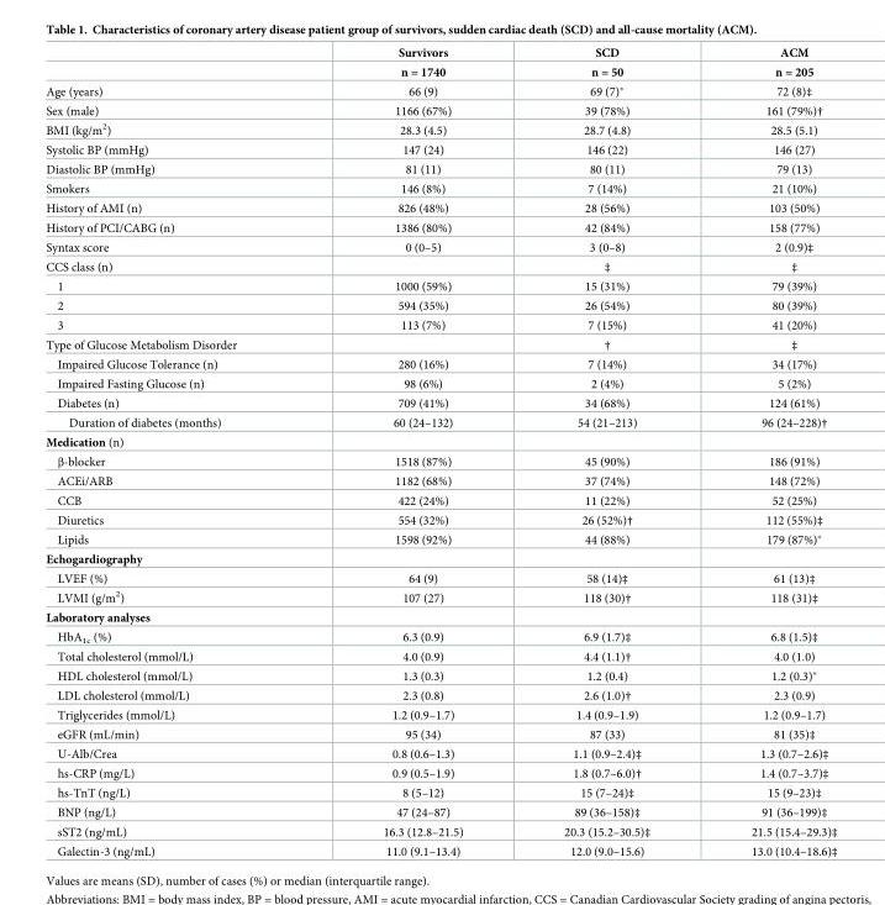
<table><thead><tr><td rowspan="2"></td><td rowspan="2">Survivors n = 1740</td><td rowspan="2">SCD n = 50</td><td rowspan="2">ACM n = 205</td></tr><tr></tr></thead><tbody><tr><td>Age (years)</td><td>66 (9)</td><td>69 (7)*</td><td>72 (8)‡</td></tr><tr><td>Sex (male)</td><td>1166 (67%)</td><td>39 (78%)</td><td>161 (79%)†</td></tr><tr><td>BMI (kg/m<sup>2</sup>)</td><td>28.3 (4.5)</td><td>28.7 (4.8)</td><td>28.5 (5.1)</td></tr><tr><td>Systolic BP (mmHg)</td><td>147 (24)</td><td>146 (22)</td><td>146 (27)</td></tr><tr><td>Diastolic BP (mmHg)</td><td>81 (11)</td><td>80 (11)</td><td>79 (13)</td></tr><tr><td>Smokers</td><td>146 (8%)</td><td>7 (14%)</td><td>21 (10%)</td></tr><tr><td>History of AMI (n)</td><td>826 (48%)</td><td>28 (56%)</td><td>103 (50%)</td></tr><tr><td>History of PCI/CABG (n)</td><td>1386 (80%)</td><td>42 (84%)</td><td>158 (77%)</td></tr><tr><td>Syntax score</td><td>0 (0–5)</td><td>3 (0–8)</td><td>2 (0.9)‡</td></tr><tr><td>CCS class (n)</td><td></td><td>‡</td><td>‡</td></tr><tr><td>1</td><td>1000 (59%)</td><td>15 (31%)</td><td>79 (39%)</td></tr><tr><td>2</td><td>594 (35%)</td><td>26 (54%)</td><td>80 (39%)</td></tr><tr><td>3</td><td>113 (7%)</td><td>7 (15%)</td><td>41 (20%)</td></tr><tr><td>Type of Glucose Metabolism Disorder</td><td></td><td>†</td><td>‡</td></tr><tr><td>Impaired Glucose Tolerance (n)</td><td>280 (16%)</td><td>7 (14%)</td><td>34 (17%)</td></tr><tr><td>Impaired Fasting Glucose (n)</td><td>98 (6%)</td><td>2 (4%)</td><td>5 (2%)</td></tr><tr><td>Diabetes (n)</td><td>709 (41%)</td><td>34 (68%)</td><td>124 (61%)</td></tr><tr><td>Duration of diabetes (months)</td><td>60 (24–132)</td><td>54 (21–213)</td><td>96 (24–228)†</td></tr><tr><td colspan="4">Medication (n)</td></tr><tr><td>β-blocker</td><td>1518 (87%)</td><td>45 (90%)</td><td>186 (91%)</td></tr><tr><td>ACEi/ARB</td><td>1182 (68%)</td><td>37 (74%)</td><td>148 (72%)</td></tr><tr><td>CCB</td><td>422 (24%)</td><td>11 (22%)</td><td>52 (25%)</td></tr><tr><td>Diuretics</td><td>554 (32%)</td><td>26 (52%)†</td><td>112 (55%)‡</td></tr><tr><td>Lipids</td><td>1598 (92%)</td><td>44 (88%)</td><td>179 (87%)*</td></tr><tr><td colspan="4">Echogardiography</td></tr><tr><td>LVEF (%)</td><td>64 (9)</td><td>58 (14)‡</td><td>61 (13)‡</td></tr><tr><td>LVMI (g/m<sup>2</sup>)</td><td>107 (27)</td><td>118 (30)†</td><td>118 (31)‡</td></tr><tr><td colspan="4">Laboratory analyses</td></tr><tr><td>HbA<sub>1c</sub> (%)</td><td>6.3 (0.9)</td><td>6.9 (1.7)‡</td><td>6.8 (1.5)‡</td></tr><tr><td>Total cholesterol (mmol/L)</td><td>4.0 (0.9)</td><td>4.4 (1.1)†</td><td>4.0 (1.0)</td></tr><tr><td>HDL cholesterol (mmol/L)</td><td>1.3 (0.3)</td><td>1.2 (0.4)</td><td>1.2 (0.3)*</td></tr><tr><td>LDL cholesterol (mmol/L)</td><td>2.3 (0.8)</td><td>2.6 (1.0)†</td><td>2.3 (0.9)</td></tr><tr><td>Triglycerides (mmol/L)</td><td>1.2 (0.9–1.7)</td><td>1.4 (0.9–1.9)</td><td>1.2 (0.9–1.7)</td></tr><tr><td>eGFR (mL/min)</td><td>95 (34)</td><td>87 (33)</td><td>81 (35)‡</td></tr><tr><td>U-Alb/Crea</td><td>0.8 (0.6–1.3)</td><td>1.1 (0.9–2.4)‡</td><td>1.3 (0.7–2.6)‡</td></tr><tr><td>hs-CRP (mg/L)</td><td>0.9 (0.5–1.9)</td><td>1.8 (0.7–6.0)†</td><td>1.4 (0.7–3.7)‡</td></tr><tr><td>hs-TnT (ng/L)</td><td>8 (5–12)</td><td>15 (7–24)‡</td><td>15 (9–23)‡</td></tr><tr><td>BNP (ng/L)</td><td>47 (24–87)</td><td>89 (36–158)‡</td><td>91 (36–199)‡</td></tr><tr><td>sST2 (ng/mL)</td><td>16.3 (12.8–21.5)</td><td>20.3 (15.2–30.5)‡</td><td>21.5 (15.4–29.3)‡</td></tr><tr><td>Galectin-3 (ng/mL)</td><td>11.0 (9.1–13.4)</td><td>12.0 (9.0–15.6)</td><td>13.0 (10.4–18.6)‡</td></tr></tbody></table>